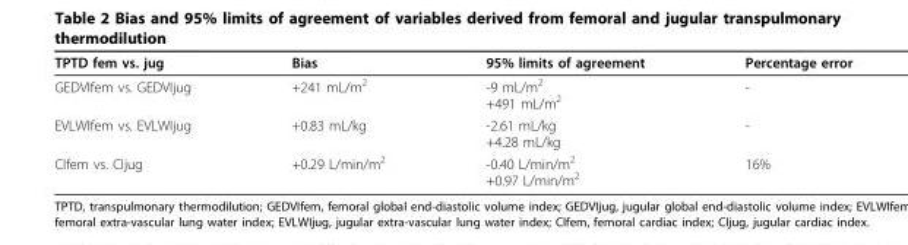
<table><thead><tr><td>TPTD fem vs. jug</td><td>Bias</td><td>95% limits of agreement</td><td>Percentage error</td></tr></thead><tbody><tr><td>GEDVIfem vs. GEDVIjug</td><td>+241 mL/m<sup>2</sup></td><td>-9 mL/m<sup>2</sup> +491 mL/m<sup>2</sup></td><td>-</td></tr><tr><td>EVLWIfem vs. EVLWIjug</td><td>+0.83 mL/kg</td><td>-2.61 mL/kg +4.28 mL/kg</td><td>-</td></tr><tr><td>CIfem vs. CIjug</td><td>+0.29 L/min/m<sup>2</sup></td><td>-0.40 L/min/m<sup>2</sup> +0.97 L/min/m<sup>2</sup></td><td>16%</td></tr></tbody></table>